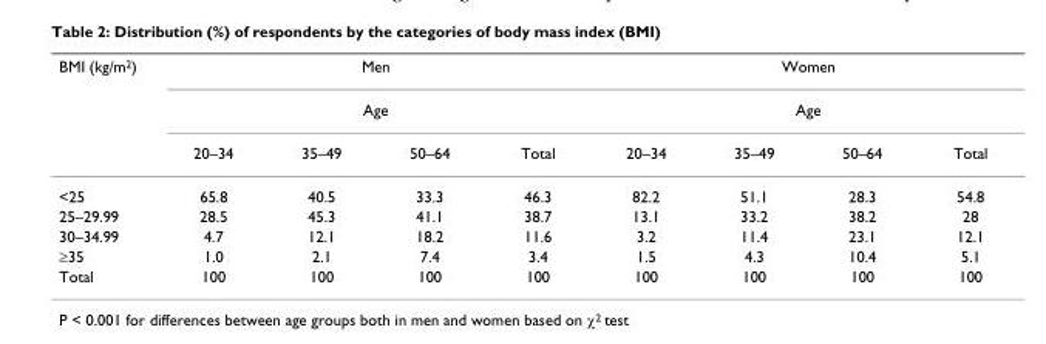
<table><thead><tr><td rowspan="3">BMI (kg/m2)</td><td rowspan="2" colspan="4">Men Age</td><td rowspan="2" colspan="4">Women Age</td></tr><tr></tr><tr><td>20–34</td><td>35–49</td><td>50–64</td><td>Total</td><td>20–34</td><td>35–49</td><td>50–64</td><td>Total</td></tr></thead><tbody><tr><td>&lt;25</td><td>65.8</td><td>40.5</td><td>33.3</td><td>46.3</td><td>82.2</td><td>51.1</td><td>28.3</td><td>54.8</td></tr><tr><td>25–29.99</td><td>28.5</td><td>45.3</td><td>41.1</td><td>38.7</td><td>13.1</td><td>33.2</td><td>38.2</td><td>28</td></tr><tr><td>30–34.99</td><td>4.7</td><td>12.1</td><td>18.2</td><td>11.6</td><td>3.2</td><td>11.4</td><td>23.1</td><td>12.1</td></tr><tr><td>≥35</td><td>1.0</td><td>2.1</td><td>7.4</td><td>3.4</td><td>1.5</td><td>4.3</td><td>10.4</td><td>5.1</td></tr><tr><td>Total</td><td>100</td><td>100</td><td>100</td><td>100</td><td>100</td><td>100</td><td>100</td><td>100</td></tr></tbody></table>